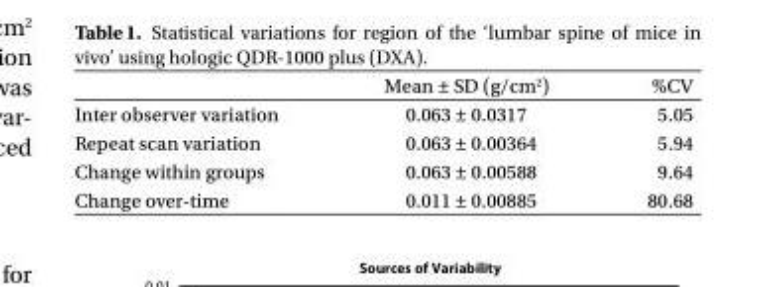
<table><thead><tr><td></td><td>Mean ± SD (g/cm<sup>2</sup>)</td><td>%CV</td></tr></thead><tbody><tr><td>Inter observer variation</td><td>0.063 ± 0.0317</td><td>5.05</td></tr><tr><td>Repeat scan variation</td><td>0.063 ± 0.00364</td><td>5.94</td></tr><tr><td>Change within groups</td><td>0.063 ± 0.00588</td><td>9.64</td></tr><tr><td>Change over-time</td><td>0.011 ± 0.00885</td><td>80.68</td></tr></tbody></table>